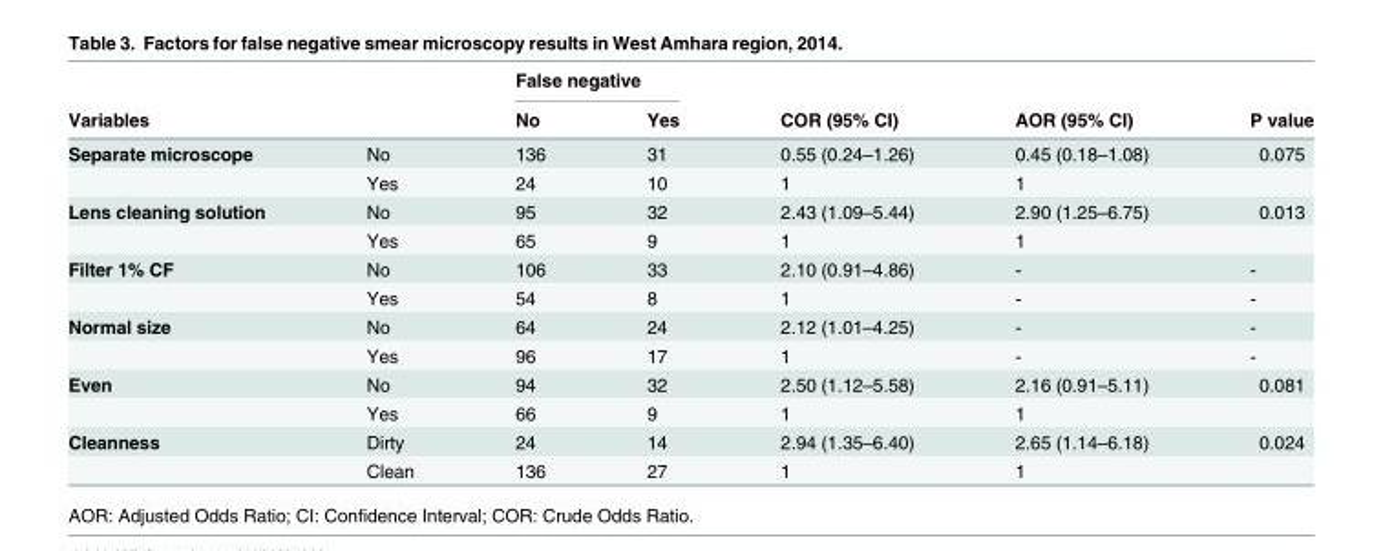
<table><thead><tr><td rowspan="2">Variables</td><td rowspan="2"></td><td colspan="2">False negative</td><td rowspan="2">COR (95% CI)</td><td rowspan="2">AOR (95% CI)</td><td rowspan="2">P value</td></tr><tr><td>No</td><td>Yes</td></tr></thead><tbody><tr><td rowspan="2">Separate microscope</td><td>No</td><td>136</td><td>31</td><td>0.55 (0.24–1.26)</td><td>0.45 (0.18–1.08)</td><td>0.075</td></tr><tr><td>Yes</td><td>24</td><td>10</td><td>1</td><td>1</td><td></td></tr><tr><td rowspan="2">Lens cleaning solution</td><td>No</td><td>95</td><td>32</td><td>2.43 (1.09–5.44)</td><td>2.90 (1.25–6.75)</td><td>0.013</td></tr><tr><td>Yes</td><td>65</td><td>9</td><td>1</td><td>1</td><td></td></tr><tr><td rowspan="2">Filter 1% CF</td><td>No</td><td>106</td><td>33</td><td>2.10 (0.91–4.86)</td><td>-</td><td>-</td></tr><tr><td>Yes</td><td>54</td><td>8</td><td>1</td><td>-</td><td>-</td></tr><tr><td rowspan="2">Normal size</td><td>No</td><td>64</td><td>24</td><td>2.12 (1.01–4.25)</td><td>-</td><td>-</td></tr><tr><td>Yes</td><td>96</td><td>17</td><td>1</td><td>-</td><td>-</td></tr><tr><td rowspan="2">Even</td><td>No</td><td>94</td><td>32</td><td>2.50 (1.12–5.58)</td><td>2.16 (0.91–5.11)</td><td>0.081</td></tr><tr><td>Yes</td><td>66</td><td>9</td><td>1</td><td>1</td><td></td></tr><tr><td rowspan="2">Cleanness</td><td>Dirty</td><td>24</td><td>14</td><td>2.94 (1.35–6.40)</td><td>2.65 (1.14–6.18)</td><td>0.024</td></tr><tr><td>Clean</td><td>136</td><td>27</td><td>1</td><td>1</td><td></td></tr></tbody></table>